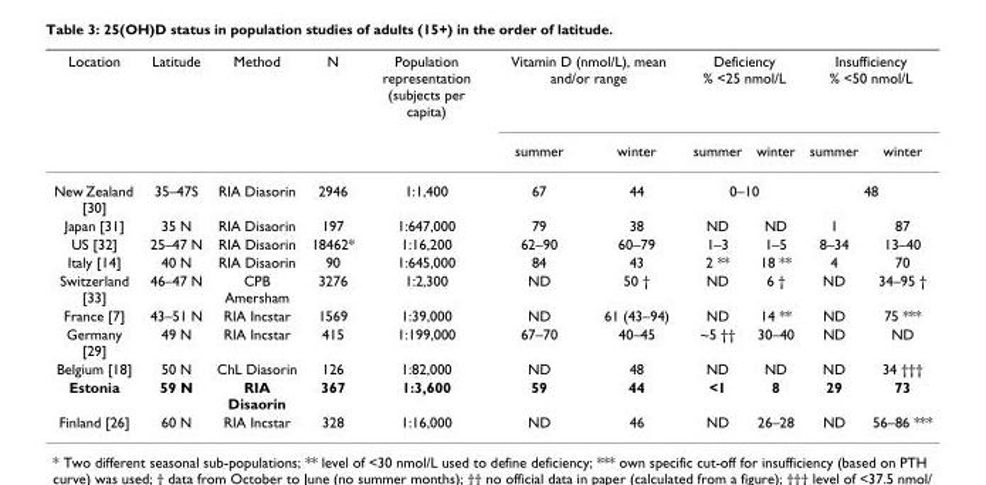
<table><thead><tr><td rowspan="2">Location</td><td rowspan="2">Latitude</td><td rowspan="2">Method</td><td rowspan="2">N</td><td rowspan="2">Population representation (subjects per capita)</td><td colspan="2">Vitamin D (nmol/L), mean and/or range</td><td colspan="2">Deficiency % &lt;25 nmol/L</td><td colspan="2">Insufficiency % &lt;50 nmol/L</td></tr><tr><td>summer</td><td>winter</td><td>summer</td><td>winter</td><td>summer</td><td>winter</td></tr></thead><tbody><tr><td>New Zealand [30]</td><td>35–47S</td><td>RIA Diasorin</td><td>2946</td><td>1:1,400</td><td>67</td><td>44</td><td colspan="2">0–10</td><td colspan="2">48</td></tr><tr><td>Japan [31]</td><td>35 N</td><td>RIA Disaorin</td><td>197</td><td>1:647,000</td><td>79</td><td>38</td><td>ND</td><td>ND</td><td>1</td><td>87</td></tr><tr><td>US [32]</td><td>25–47 N</td><td>RIA Disaorin</td><td>18462*</td><td>1:16,200</td><td>62–90</td><td>60–79</td><td>1–3</td><td>1–5</td><td>8–34</td><td>13–40</td></tr><tr><td>Italy [14]</td><td>40 N</td><td>RIA Disaorin</td><td>90</td><td>1:645,000</td><td>84</td><td>43</td><td>2 **</td><td>18 **</td><td>4</td><td>70</td></tr><tr><td>Switzerland [33]</td><td>46–47 N</td><td>CPB Amersham</td><td>3276</td><td>1:2,300</td><td>ND</td><td>50 †</td><td>ND</td><td>6 †</td><td>ND</td><td>34–95 †</td></tr><tr><td>France [7]</td><td>43–51 N</td><td>RIA Incstar</td><td>1569</td><td>1:39,000</td><td>ND</td><td>61 (43–94)</td><td>ND</td><td>14 **</td><td>ND</td><td>75 ***</td></tr><tr><td>Germany [29]</td><td>49 N</td><td>RIA Incstar</td><td>415</td><td>1:199,000</td><td>67–70</td><td>40–45</td><td>~5 ††</td><td>30–40</td><td>ND</td><td>ND</td></tr><tr><td>Belgium [18]</td><td>50 N</td><td>ChL Diasorin</td><td>126</td><td>1:82,000</td><td>ND</td><td>48</td><td>ND</td><td>ND</td><td>ND</td><td>34 †††</td></tr><tr><td>Estonia</td><td>59 N</td><td>RIA Disaorin</td><td>367</td><td>1:3,600</td><td>59</td><td>44</td><td>&lt;1</td><td>8</td><td>29</td><td>73</td></tr><tr><td>Finland [26]</td><td>60 N</td><td>RIA Incstar</td><td>328</td><td>1:16,000</td><td>ND</td><td>46</td><td>ND</td><td>26–28</td><td>ND</td><td>56–86 ***</td></tr></tbody></table>